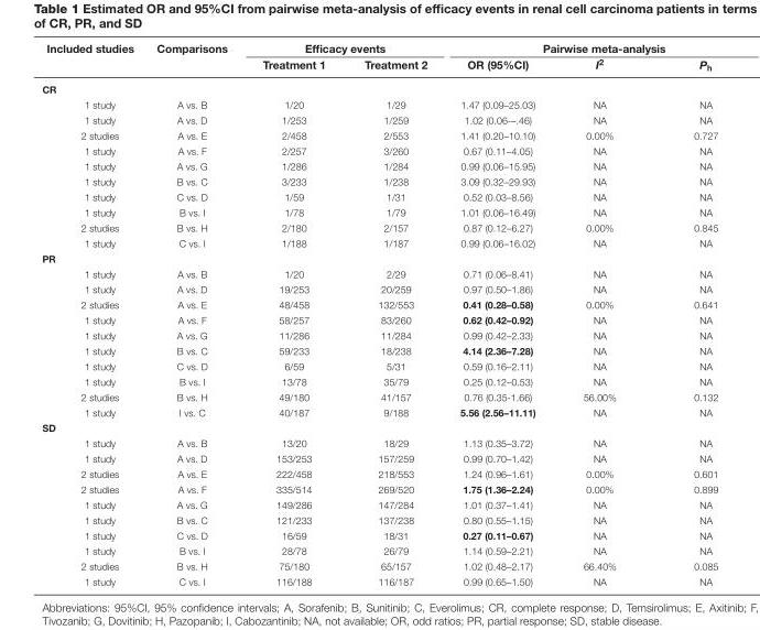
<table><thead><tr><td rowspan="2">Included studies</td><td rowspan="2">Comparisons</td><td colspan="2">Efficacy events</td><td colspan="3">Pairwise meta-analysis</td></tr><tr><td>Treatment 1</td><td>Treatment 2</td><td>OR (95%CI)</td><td>I<sup>2</sup></td><td>P<sub>h</sub></td></tr></thead><tbody><tr><td colspan="7">CR</td></tr><tr><td>1 study</td><td>A vs. B</td><td>1/20</td><td>1/29</td><td>1.47 (0.09–25.03)</td><td>NA</td><td>NA</td></tr><tr><td>1 study</td><td>A vs. D</td><td>1/253</td><td>1/259</td><td>1.02 (0.06-–.46)</td><td>NA</td><td>NA</td></tr><tr><td>2 studies</td><td>A vs. E</td><td>2/458</td><td>2/553</td><td>1.41 (0.20–10.10)</td><td>0.00%</td><td>0.727</td></tr><tr><td>1 study</td><td>A vs. F</td><td>2/257</td><td>3/260</td><td>0.67 (0.11–4.05)</td><td>NA</td><td>NA</td></tr><tr><td>1 study</td><td>A vs. G</td><td>1/286</td><td>1/284</td><td>0.99 (0.06–15.95)</td><td>NA</td><td>NA</td></tr><tr><td>1 study</td><td>B vs. C</td><td>3/233</td><td>1/238</td><td>3.09 (0.32–29.93)</td><td>NA</td><td>NA</td></tr><tr><td>1 study</td><td>C vs. D</td><td>1/59</td><td>1/31</td><td>0.52 (0.03–8.56)</td><td>NA</td><td>NA</td></tr><tr><td>1 study</td><td>B vs. I</td><td>1/78</td><td>1/79</td><td>1.01 (0.06–16.49)</td><td>NA</td><td>NA</td></tr><tr><td>2 studies</td><td>B vs. H</td><td>2/180</td><td>2/157</td><td>0.87 (0.12–6.27)</td><td>0.00%</td><td>0.845</td></tr><tr><td>1 study</td><td>C vs. I</td><td>1/188</td><td>1/187</td><td>0.99 (0.06–16.02)</td><td>NA</td><td>NA</td></tr><tr><td colspan="7">PR</td></tr><tr><td>1 study</td><td>A vs. B</td><td>1/20</td><td>2/29</td><td>0.71 (0.06–8.41)</td><td>NA</td><td>NA</td></tr><tr><td>1 study</td><td>A vs. D</td><td>19/253</td><td>20/259</td><td>0.97 (0.50–1.86)</td><td>NA</td><td>NA</td></tr><tr><td>2 studies</td><td>A vs. E</td><td>48/458</td><td>132/553</td><td>0.41 (0.28–0.58)</td><td>0.00%</td><td>0.641</td></tr><tr><td>1 study</td><td>A vs. F</td><td>58/257</td><td>83/260</td><td>0.62 (0.42–0.92)</td><td>NA</td><td>NA</td></tr><tr><td>1 study</td><td>A vs. G</td><td>11/286</td><td>11/284</td><td>0.99 (0.42–2.33)</td><td>NA</td><td>NA</td></tr><tr><td>1 study</td><td>B vs. C</td><td>59/233</td><td>18/238</td><td>4.14 (2.36–7.28)</td><td>NA</td><td>NA</td></tr><tr><td>1 study</td><td>C vs. D</td><td>6/59</td><td>5/31</td><td>0.59 (0.16–2.11)</td><td>NA</td><td>NA</td></tr><tr><td>1 study</td><td>B vs. I</td><td>13/78</td><td>35/79</td><td>0.25 (0.12–0.53)</td><td>NA</td><td>NA</td></tr><tr><td>2 studies</td><td>B vs. H</td><td>49/180</td><td>41/157</td><td>0.76 (0.35-1.66)</td><td>56.00%</td><td>0.132</td></tr><tr><td>1 study</td><td>I vs. C</td><td>40/187</td><td>9/188</td><td>5.56 (2.56–11.11)</td><td>NA</td><td>NA</td></tr><tr><td colspan="7">SD</td></tr><tr><td>1 study</td><td>A vs. B</td><td>13/20</td><td>18/29</td><td>1.13 (0.35–3.72)</td><td>NA</td><td>NA</td></tr><tr><td>1 study</td><td>A vs. D</td><td>153/253</td><td>157/259</td><td>0.99 (0.70–1.42)</td><td>NA</td><td>NA</td></tr><tr><td>2 studies</td><td>A vs. E</td><td>222/458</td><td>218/553</td><td>1.24 (0.96–1.61)</td><td>0.00%</td><td>0.601</td></tr><tr><td>2 studies</td><td>A vs. F</td><td>335/514</td><td>269/520</td><td>1.75 (1.36–2.24)</td><td>0.00%</td><td>0.899</td></tr><tr><td>1 study</td><td>A vs. G</td><td>149/286</td><td>147/284</td><td>1.01 (0.37–1.41)</td><td>NA</td><td>NA</td></tr><tr><td>1 study</td><td>B vs. C</td><td>121/233</td><td>137/238</td><td>0.80 (0.55–1.15)</td><td>NA</td><td>NA</td></tr><tr><td>1 study</td><td>C vs. D</td><td>16/59</td><td>18/31</td><td>0.27 (0.11–0.67)</td><td>NA</td><td>NA</td></tr><tr><td>1 study</td><td>B vs. I</td><td>28/78</td><td>26/79</td><td>1.14 (0.59–2.21)</td><td>NA</td><td>NA</td></tr><tr><td>2 studies</td><td>B vs. H</td><td>75/180</td><td>65/157</td><td>1.02 (0.48–2.17)</td><td>66.40%</td><td>0.085</td></tr><tr><td>1 study</td><td>C vs. I</td><td>116/188</td><td>116/187</td><td>0.99 (0.65–1.50)</td><td>NA</td><td>NA</td></tr></tbody></table>